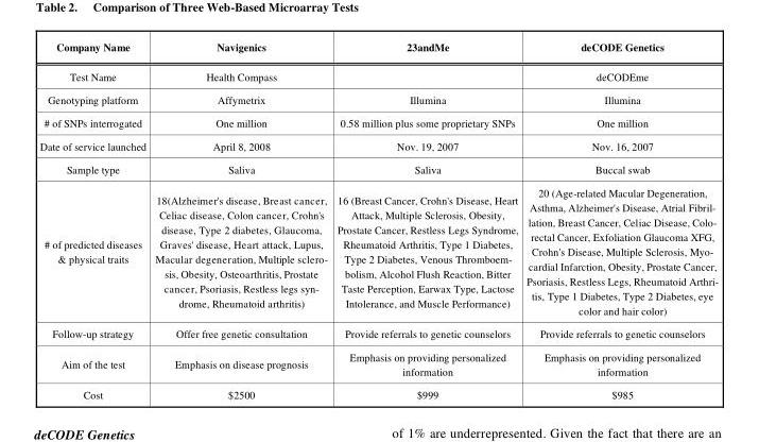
<table><thead><tr><td>Company Name</td><td>Navigenics</td><td>23andMe</td><td>deCODE Genetics</td></tr></thead><tbody><tr><td>Test Name</td><td>Health Compass</td><td></td><td>deCODEme</td></tr><tr><td>Genotyping platform</td><td>Affymetrix</td><td>Illumina</td><td>Illumina</td></tr><tr><td># of SNPs interrogated</td><td>One million</td><td>0.58 million plus some proprietary SNPs</td><td>One million</td></tr><tr><td>Date of service launched</td><td>April 8, 2008</td><td>Nov. 19, 2007</td><td>Nov. 16, 2007</td></tr><tr><td>Sample type</td><td>Saliva</td><td>Saliva</td><td>Buccal swab</td></tr><tr><td># of predicted diseases &amp; physical traits</td><td>18(Alzheimer&#x27;s disease, Breast cancer, Celiac disease, Colon cancer, Crohn&#x27;s disease, Type 2 diabetes, Glaucoma, Graves&#x27; disease, Heart attack, Lupus, Macular degeneration, Multiple sclero- sis, Obesity, Osteoarthritis, Prostate cancer, Psoriasis, Restless legs syn- drome, Rheumatoid arthritis)</td><td>16 (Breast Cancer, Crohn&#x27;s Disease, Heart Attack, Multiple Sclerosis, Obesity, Prostate Cancer, Restless Legs Syndrome, Rheumatoid Arthritis, Type 1 Diabetes, Type 2 Diabetes, Venous Thromboem- bolism, Alcohol Flush Reaction, Bitter Taste Perception, Earwax Type, Lactose Intolerance, and Muscle Performance)</td><td>20 (Age-related Macular Degeneration, Asthma, Alzheimer&#x27;s Disease, Atrial Fibril- lation, Breast Cancer, Celiac Disease, Colo- rectal Cancer, Exfoliation Glaucoma XFG, Crohn&#x27;s Disease, Multiple Sclerosis, Myo- cardial Infarction, Obesity, Prostate Cancer, Psoriasis, Restless Legs, Rheumatoid Arthri- tis, Type 1 Diabetes, Type 2 Diabetes, eye color and hair color)</td></tr><tr><td>Follow-up strategy</td><td>Offer free genetic consultation</td><td>Provide referrals to genetic counselors</td><td>Provide referrals to genetic counselors</td></tr><tr><td>Aim of the test</td><td>Emphasis on disease prognosis</td><td>Emphasis on providing personalized information</td><td>Emphasis on providing personalized information</td></tr><tr><td>Cost</td><td>$2500</td><td>$999</td><td>$985</td></tr></tbody></table>